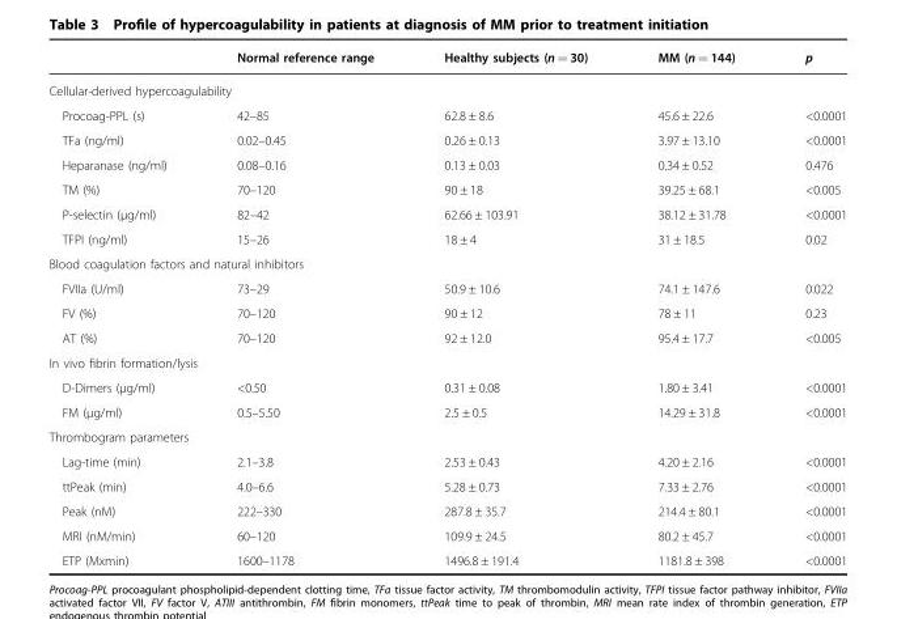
<table><thead><tr><td></td><td>Normal reference range</td><td>Healthy subjects (n = 30)</td><td>MM (n = 144)</td><td>p</td></tr></thead><tbody><tr><td colspan="5">Cellular-derived hypercoagulability</td></tr><tr><td>Procoag-PPL (s)</td><td>42–85</td><td>62.8 ± 8.6</td><td>45.6 ± 22.6</td><td>&lt;0.0001</td></tr><tr><td>TFa (ng/ml)</td><td>0.02–0.45</td><td>0.26 ± 0.13</td><td>3.97 ± 13.10</td><td>&lt;0.0001</td></tr><tr><td>Heparanase (ng/ml)</td><td>0.08–0.16</td><td>0.13 ± 0.03</td><td>0.34 ± 0.52</td><td>0.476</td></tr><tr><td>TM (%)</td><td>70–120</td><td>90 ± 18</td><td>39.25 ± 68.1</td><td>&lt;0.005</td></tr><tr><td>P-selectin (μg/ml)</td><td>82–42</td><td>62.66 ± 103.91</td><td>38.12 ± 31.78</td><td>&lt;0.0001</td></tr><tr><td>TFPI (ng/ml)</td><td>15–26</td><td>18 ± 4</td><td>31 ± 18.5</td><td>0.02</td></tr><tr><td colspan="5">Blood coagulation factors and natural inhibitors</td></tr><tr><td>FVIIa (U/ml)</td><td>73–29</td><td>50.9 ± 10.6</td><td>74.1 ± 147.6</td><td>0.022</td></tr><tr><td>FV (%)</td><td>70–120</td><td>90 ± 12</td><td>78 ± 11</td><td>0.23</td></tr><tr><td>AT (%)</td><td>70–120</td><td>92 ± 12.0</td><td>95.4 ± 17.7</td><td>&lt;0.005</td></tr><tr><td colspan="5">In vivo fibrin formation/lysis</td></tr><tr><td>D-Dimers (μg/ml)</td><td>&lt;0.50</td><td>0.31 ± 0.08</td><td>1.80 ± 3.41</td><td>&lt;0.0001</td></tr><tr><td>FM (μg/ml)</td><td>0.5–5.50</td><td>2.5 ± 0.5</td><td>14.29 ± 31.8</td><td>&lt;0.0001</td></tr><tr><td colspan="5">Thrombogram parameters</td></tr><tr><td>Lag-time (min)</td><td>2.1–3.8</td><td>2.53 ± 0.43</td><td>4.20 ± 2.16</td><td>&lt;0.0001</td></tr><tr><td>ttPeak (min)</td><td>4.0–6.6</td><td>5.28 ± 0.73</td><td>7.33 ± 2.76</td><td>&lt;0.0001</td></tr><tr><td>Peak (nM)</td><td>222–330</td><td>287.8 ± 35.7</td><td>214.4 ± 80.1</td><td>&lt;0.0001</td></tr><tr><td>MRI (nM/min)</td><td>60–120</td><td>109.9 ± 24.5</td><td>80.2 ± 45.7</td><td>&lt;0.0001</td></tr><tr><td>ETP (Mxmin)</td><td>1600–1178</td><td>1496.8 ± 191.4</td><td>1181.8 ± 398</td><td>&lt;0.0001</td></tr></tbody></table>